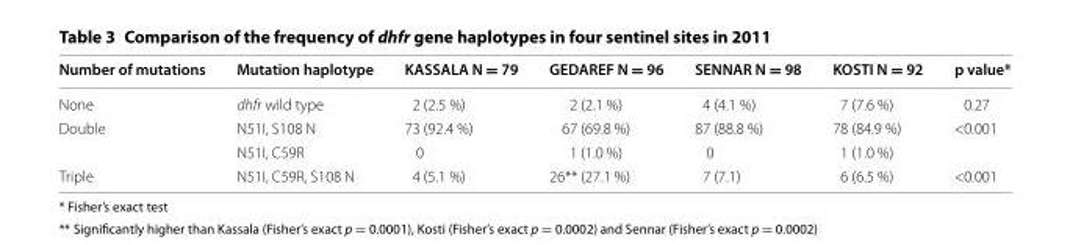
<table><thead><tr><td>Number of mutations</td><td>Mutation haplotype</td><td>KASSALA N = 79</td><td>GEDAREF N = 96</td><td>SENNAR N = 98</td><td>KOSTI N = 92</td><td>p value*</td></tr></thead><tbody><tr><td>None</td><td>dhfr wild type</td><td>2 (2.5 %)</td><td>2 (2.1 %)</td><td>4 (4.1 %)</td><td>7 (7.6 %)</td><td>0.27</td></tr><tr><td rowspan="2">Double</td><td>N51I, S108 N</td><td>73 (92.4 %)</td><td>67 (69.8 %)</td><td>87 (88.8 %)</td><td>78 (84.9 %)</td><td>&lt;0.001</td></tr><tr><td>N51I, C59R</td><td>0</td><td>1 (1.0 %)</td><td>0</td><td>1 (1.0 %)</td><td></td></tr><tr><td>Triple</td><td>N51I, C59R, S108 N</td><td>4 (5.1 %)</td><td>26** (27.1 %)</td><td>7 (7.1)</td><td>6 (6.5 %)</td><td>&lt;0.001</td></tr></tbody></table>